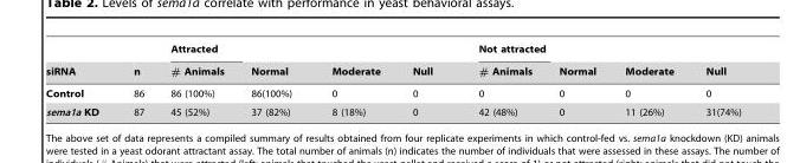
<table><thead><tr><td rowspan="2">siRNA</td><td rowspan="2">n</td><td rowspan="2">Attracted # Animals</td><td rowspan="2">Normal</td><td rowspan="2">Moderate</td><td rowspan="2">Null</td><td rowspan="2">Not attracted # Animals</td><td rowspan="2">Normal</td><td rowspan="2">Moderate</td><td rowspan="2">Null</td></tr><tr></tr></thead><tbody><tr><td>Control</td><td>86</td><td>86 (100%)</td><td>86(100%)</td><td>0</td><td>0</td><td>0</td><td>0</td><td>0</td><td>0</td></tr><tr><td>sema1a KD</td><td>87</td><td>45 (52%)</td><td>37 (82%)</td><td>8 (18%)</td><td>0</td><td>42 (48%)</td><td>0</td><td>11 (26%)</td><td>31(74%)</td></tr></tbody></table>